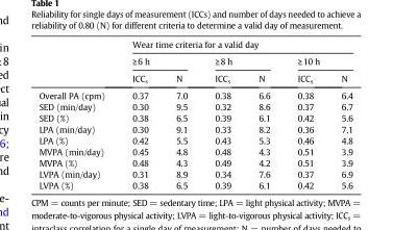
<table><thead><tr><td rowspan="3"></td><td colspan="6">Wear time criteria for a valid day</td></tr><tr><td colspan="2">≥6 h</td><td colspan="2">≥8 h</td><td colspan="2">≥10 h</td></tr><tr><td>ICC<sub>s</sub></td><td>N</td><td>ICC<sub>s</sub></td><td>N</td><td>ICC<sub>s</sub></td><td>N</td></tr></thead><tbody><tr><td>Overall PA (cpm)</td><td>0.37</td><td>7.0</td><td>0.38</td><td>6.6</td><td>0.38</td><td>6.4</td></tr><tr><td>SED (min/day)</td><td>0.30</td><td>9.5</td><td>0.32</td><td>8.6</td><td>0.37</td><td>6.7</td></tr><tr><td>SED (%)</td><td>0.38</td><td>6.5</td><td>0.39</td><td>6.1</td><td>0.42</td><td>5.6</td></tr><tr><td>LPA (min/day)</td><td>0.30</td><td>9.1</td><td>0.33</td><td>8.2</td><td>0.36</td><td>7.1</td></tr><tr><td>LPA (%)</td><td>0.42</td><td>5.5</td><td>0.43</td><td>5.3</td><td>0.46</td><td>4.8</td></tr><tr><td>MVPA (min/day)</td><td>0.45</td><td>4.8</td><td>0.48</td><td>4.3</td><td>0.51</td><td>3.9</td></tr><tr><td>MVPA (%)</td><td>0.48</td><td>4.3</td><td>0.49</td><td>4.2</td><td>0.51</td><td>3.9</td></tr><tr><td>LVPA (min/day)</td><td>0.31</td><td>8.9</td><td>0.34</td><td>7.6</td><td>0.37</td><td>6.9</td></tr><tr><td>LVPA (%)</td><td>0.38</td><td>6.5</td><td>0.39</td><td>6.1</td><td>0.42</td><td>5.6</td></tr></tbody></table>